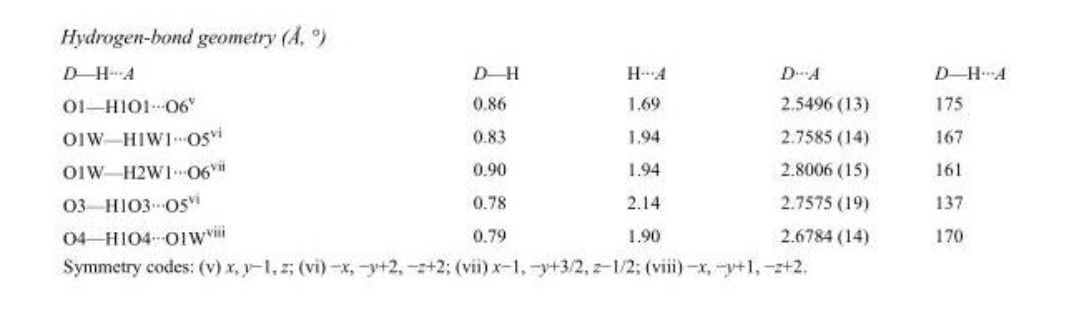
<table><tbody><tr><td>D—H···A</td><td>D—H</td><td>H···A</td><td>D···A</td><td>D—H···A</td></tr><tr><td>O1—H1O1···O6<sup>v</sup></td><td>0.86</td><td>1.69</td><td>2.5496 (13)</td><td>175</td></tr><tr><td>O1W—H1W1···O5<sup>vi</sup></td><td>0.83</td><td>1.94</td><td>2.7585 (14)</td><td>167</td></tr><tr><td>O1W—H2W1···O6<sup>vii</sup></td><td>0.90</td><td>1.94</td><td>2.8006 (15)</td><td>161</td></tr><tr><td>O3—H1O3···O5<sup>vi</sup></td><td>0.78</td><td>2.14</td><td>2.7575 (19)</td><td>137</td></tr><tr><td>O4—H1O4···O1W<sup>viii</sup></td><td>0.79</td><td>1.90</td><td>2.6784 (14)</td><td>170</td></tr></tbody></table>